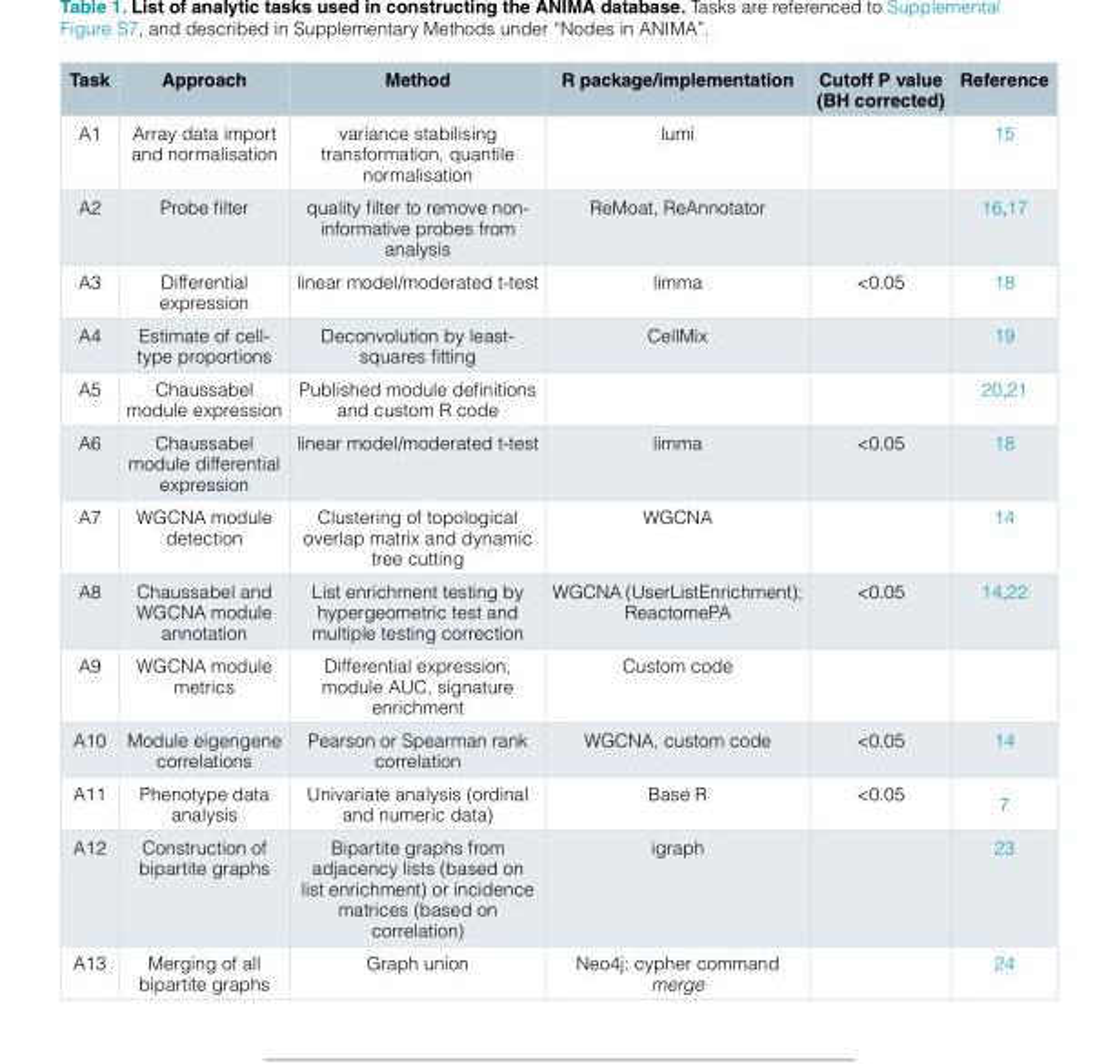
<table><thead><tr><td>Task</td><td>Approach</td><td>Method</td><td>R package/implementation</td><td>Cutoff P value (BH corrected)</td><td>Reference</td></tr></thead><tbody><tr><td>A1</td><td>Array data import and normalisation</td><td>variance stabilising transformation, quantile normalisation</td><td>lumi</td><td></td><td>15</td></tr><tr><td>A2</td><td>Probe filter</td><td>quality filter to remove non- informative probes from analysis</td><td>ReMoat, ReAnnotator</td><td></td><td>16,17</td></tr><tr><td>A3</td><td>Differential expression</td><td>linear model/moderated t-test</td><td>limma</td><td>&lt;0.05</td><td>18</td></tr><tr><td>A4</td><td>Estimate of cell- type proportions</td><td>Deconvolution by least- squares fitting</td><td>CellMix</td><td></td><td>19</td></tr><tr><td>A5</td><td>Chaussabel module expression</td><td>Published module definitions and custom R code</td><td></td><td></td><td>20,21</td></tr><tr><td>A6</td><td>Chaussabel module differential expression</td><td>linear model/moderated t-test</td><td>limma</td><td>&lt;0.05</td><td>18</td></tr><tr><td>A7</td><td>WGCNA module detection</td><td>Clustering of topological overlap matrix and dynamic tree cutting</td><td>WGCNA</td><td></td><td>14</td></tr><tr><td>A8</td><td>Chaussabel and WGCNA module annotation</td><td>List enrichment testing by hypergeometric test and multiple testing correction</td><td>WGCNA (UserListEnrichment); ReactomePA</td><td>&lt;0.05</td><td>14,22</td></tr><tr><td>A9</td><td>WGCNA module metrics</td><td>Differential expression, module AUC, signature enrichment</td><td>Custom code</td><td></td><td></td></tr><tr><td>A10</td><td>Module eigengene correlations</td><td>Pearson or Spearman rank correlation</td><td>WGCNA, custom code</td><td>&lt;0.05</td><td>14</td></tr><tr><td>A11</td><td>Phenotype data analysis</td><td>Univariate analysis (ordinal and numeric data)</td><td>Base R</td><td>&lt;0.05</td><td>7</td></tr><tr><td>A12</td><td>Construction of bipartite graphs</td><td>Bipartite graphs from adjacency lists (based on list enrichment) or incidence matrices (based on correlation)</td><td>igraph</td><td></td><td>23</td></tr><tr><td>A13</td><td>Merging of all bipartite graphs</td><td>Graph union</td><td>Neo4j: cypher command merge</td><td></td><td>24</td></tr></tbody></table>